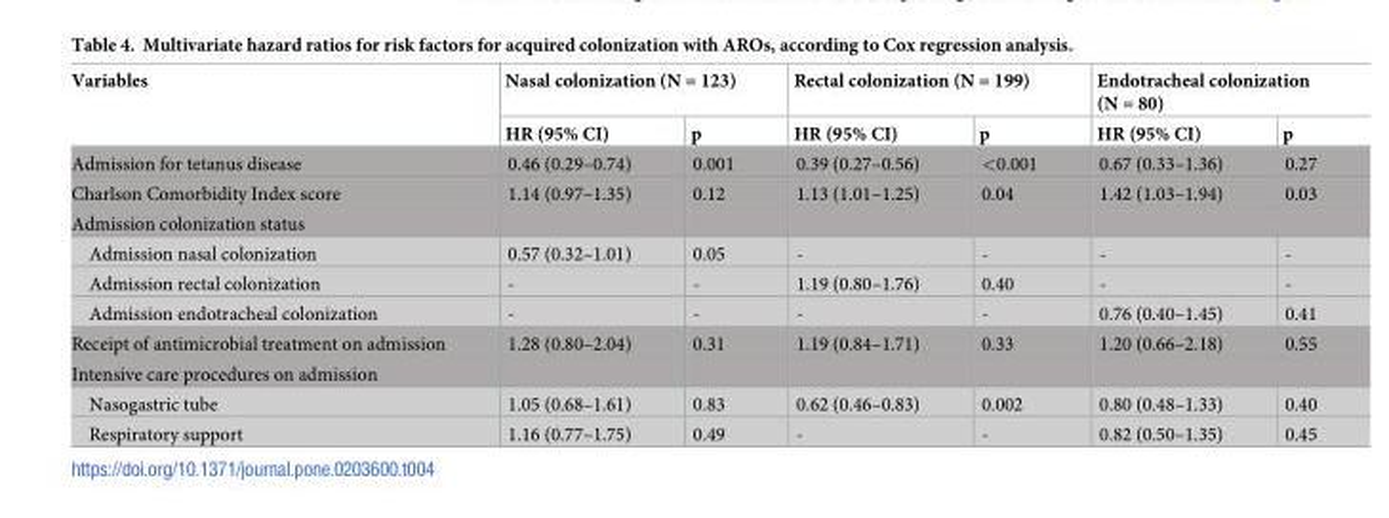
<table><thead><tr><td rowspan="2">Variables</td><td colspan="2">Nasal colonization (N = 123)</td><td colspan="2">Rectal colonization (N = 199)</td><td colspan="2">Endotracheal colonization (N = 80)</td></tr><tr><td>HR (95% CI)</td><td>p</td><td>HR (95% CI)</td><td>p</td><td>HR (95% CI)</td><td>p</td></tr></thead><tbody><tr><td>Admission for tetanus disease</td><td>0.46 (0.29–0.74)</td><td>0.001</td><td>0.39 (0.27–0.56)</td><td>&lt;0.001</td><td>0.67 (0.33–1.36)</td><td>0.27</td></tr><tr><td>Charlson Comorbidity Index score</td><td>1.14 (0.97–1.35)</td><td>0.12</td><td>1.13 (1.01–1.25)</td><td>0.04</td><td>1.42 (1.03–1.94)</td><td>0.03</td></tr><tr><td colspan="7">Admission colonization status</td></tr><tr><td>Admission nasal colonization</td><td>0.57 (0.32–1.01)</td><td>0.05</td><td>-</td><td>-</td><td>-</td><td>-</td></tr><tr><td>Admission rectal colonization</td><td>-</td><td>-</td><td>1.19 (0.80–1.76)</td><td>0.40</td><td>-</td><td>-</td></tr><tr><td>Admission endotracheal colonization</td><td>-</td><td>-</td><td>-</td><td>-</td><td>0.76 (0.40–1.45)</td><td>0.41</td></tr><tr><td>Receipt of antimicrobial treatment on admission</td><td>1.28 (0.80–2.04)</td><td>0.31</td><td>1.19 (0.84–1.71)</td><td>0.33</td><td>1.20 (0.66–2.18)</td><td>0.55</td></tr><tr><td colspan="7">Intensive care procedures on admission</td></tr><tr><td>Nasogastric tube</td><td>1.05 (0.68–1.61)</td><td>0.83</td><td>0.62 (0.46–0.83)</td><td>0.002</td><td>0.80 (0.48–1.33)</td><td>0.40</td></tr><tr><td>Respiratory support</td><td>1.16 (0.77–1.75)</td><td>0.49</td><td>-</td><td>-</td><td>0.82 (0.50–1.35)</td><td>0.45</td></tr></tbody></table>